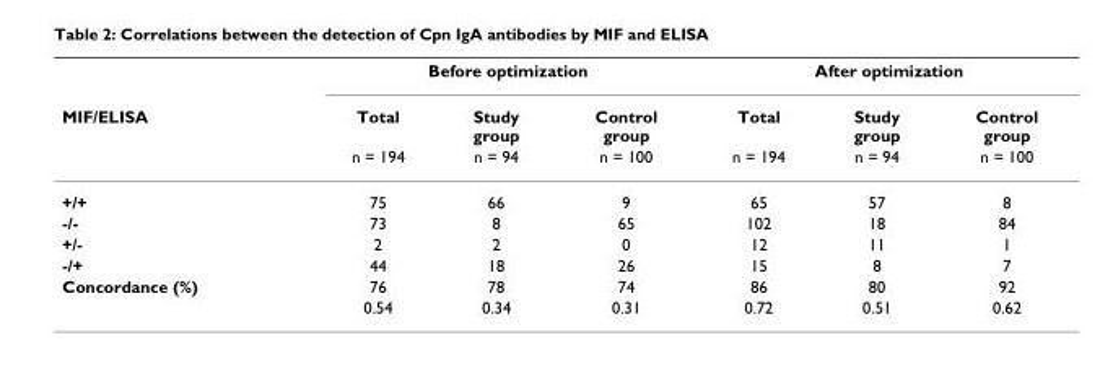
<table><thead><tr><td rowspan="3">MIF/ELISA</td><td colspan="3">Before optimization</td><td colspan="3">After optimization</td></tr><tr><td rowspan="2">Total n = 194</td><td rowspan="2">Study group n = 94</td><td rowspan="2">Control group n = 100</td><td rowspan="2">Total n = 194</td><td rowspan="2">Study group n = 94</td><td rowspan="2">Control group n = 100</td></tr><tr></tr></thead><tbody><tr><td>+/+</td><td>75</td><td>66</td><td>9</td><td>65</td><td>57</td><td>8</td></tr><tr><td>-/-</td><td>73</td><td>8</td><td>65</td><td>102</td><td>18</td><td>84</td></tr><tr><td>+/-</td><td>2</td><td>2</td><td>0</td><td>12</td><td>11</td><td>1</td></tr><tr><td>-/+</td><td>44</td><td>18</td><td>26</td><td>15</td><td>8</td><td>7</td></tr><tr><td>Concordance (%)</td><td>76</td><td>78</td><td>74</td><td>86</td><td>80</td><td>92</td></tr><tr><td></td><td>0.54</td><td>0.34</td><td>0.31</td><td>0.72</td><td>0.51</td><td>0.62</td></tr></tbody></table>